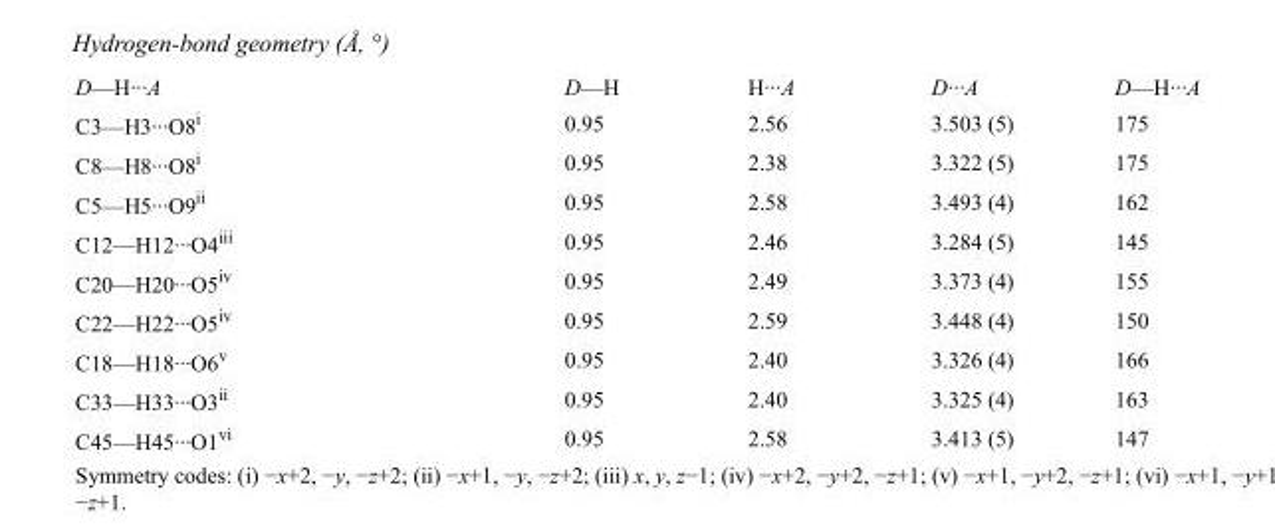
<table><tbody><tr><td>D—H···A</td><td>D—H</td><td>H···A</td><td>D···A</td><td>D—H···A</td></tr><tr><td>C3—H3···O8<sup>i</sup></td><td>0.95</td><td>2.56</td><td>3.503 (5)</td><td>175</td></tr><tr><td>C8—H8···O8<sup>i</sup></td><td>0.95</td><td>2.38</td><td>3.322 (5)</td><td>175</td></tr><tr><td>C5—H5···O9<sup>ii</sup></td><td>0.95</td><td>2.58</td><td>3.493 (4)</td><td>162</td></tr><tr><td>C12—H12···O4<sup>iii</sup></td><td>0.95</td><td>2.46</td><td>3.284 (5)</td><td>145</td></tr><tr><td>C20—H20···O5<sup>iv</sup></td><td>0.95</td><td>2.49</td><td>3.373 (4)</td><td>155</td></tr><tr><td>C22—H22···O5<sup>iv</sup></td><td>0.95</td><td>2.59</td><td>3.448 (4)</td><td>150</td></tr><tr><td>C18—H18···O6<sup>v</sup></td><td>0.95</td><td>2.40</td><td>3.326 (4)</td><td>166</td></tr><tr><td>C33—H33···O3<sup>ii</sup></td><td>0.95</td><td>2.40</td><td>3.325 (4)</td><td>163</td></tr><tr><td>C45—H45···O1<sup>vi</sup></td><td>0.95</td><td>2.58</td><td>3.413 (5)</td><td>147</td></tr></tbody></table>